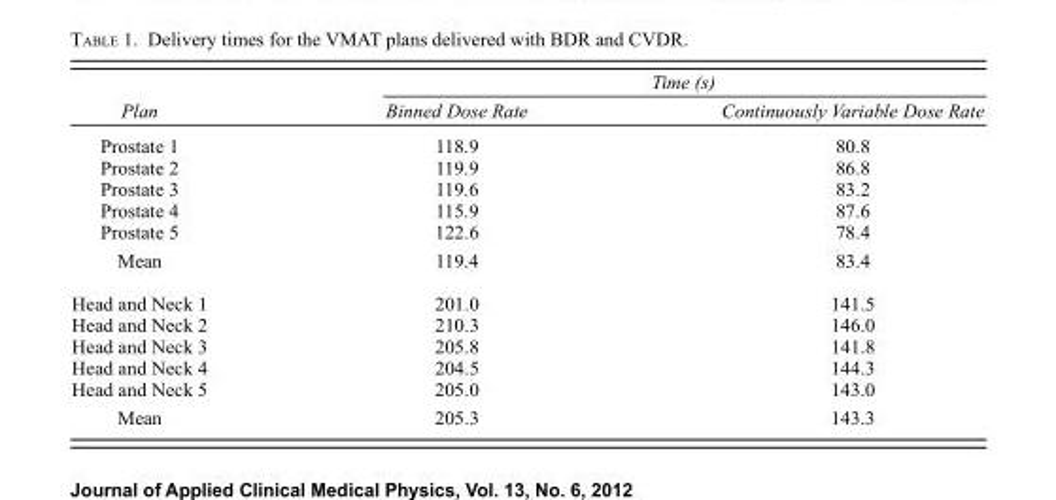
<table><thead><tr><td rowspan="2">Plan</td><td colspan="2">Time (s)</td></tr><tr><td>Binned Dose Rate</td><td>Continuously Variable Dose Rate</td></tr></thead><tbody><tr><td>Prostate 1</td><td>118.9</td><td>80.8</td></tr><tr><td>Prostate 2</td><td>119.9</td><td>86.8</td></tr><tr><td>Prostate 3</td><td>119.6</td><td>83.2</td></tr><tr><td>Prostate 4</td><td>115.9</td><td>87.6</td></tr><tr><td>Prostate 5</td><td>122.6</td><td>78.4</td></tr><tr><td>Mean</td><td>119.4</td><td>83.4</td></tr><tr><td>Head and Neck 1</td><td>201.0</td><td>141.5</td></tr><tr><td>Head and Neck 2</td><td>210.3</td><td>146.0</td></tr><tr><td>Head and Neck 3</td><td>205.8</td><td>141.8</td></tr><tr><td>Head and Neck 4</td><td>204.5</td><td>144.3</td></tr><tr><td>Head and Neck 5</td><td>205.0</td><td>143.0</td></tr><tr><td>Mean</td><td>205.3</td><td>143.3</td></tr></tbody></table>